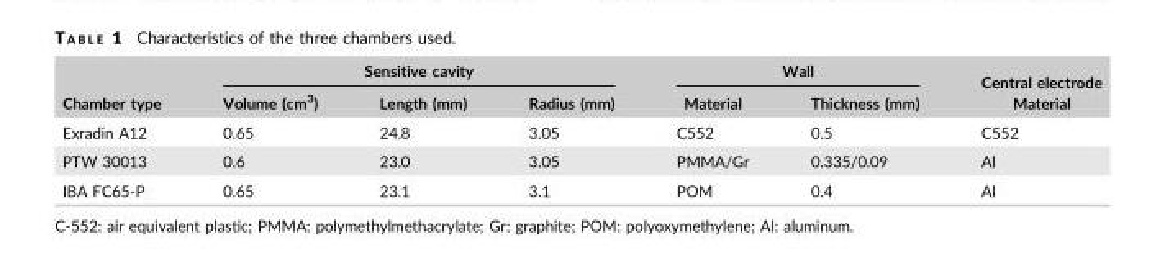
<table><thead><tr><td rowspan="2">Chamber type</td><td colspan="3">Sensitive cavity</td><td colspan="2">Wall</td><td rowspan="2">Central electrode Material</td></tr><tr><td>Volume (cm<sup>3</sup>)</td><td>Length (mm)</td><td>Radius (mm)</td><td>Material</td><td>Thickness (mm)</td></tr></thead><tbody><tr><td>Exradin A12</td><td>0.65</td><td>24.8</td><td>3.05</td><td>C552</td><td>0.5</td><td>C552</td></tr><tr><td>PTW 30013</td><td>0.6</td><td>23.0</td><td>3.05</td><td>PMMA/Gr</td><td>0.335/0.09</td><td>Al</td></tr><tr><td>IBA FC65-P</td><td>0.65</td><td>23.1</td><td>3.1</td><td>POM</td><td>0.4</td><td>Al</td></tr></tbody></table>